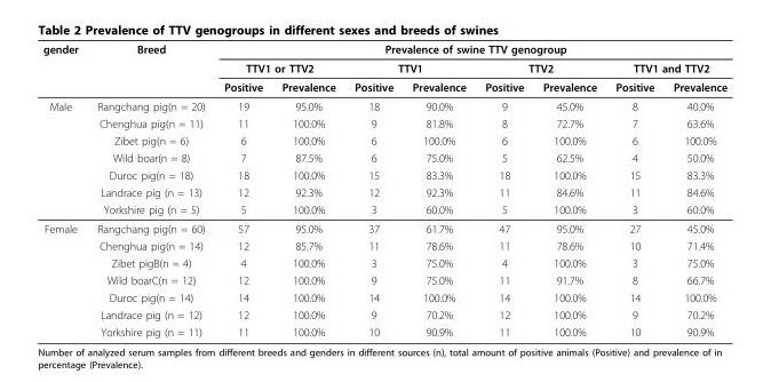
<table><thead><tr><td rowspan="3">gender</td><td rowspan="3">Breed</td><td colspan="8">Prevalence of swine TTV genogroup</td></tr><tr><td colspan="2">TTV1 or TTV2</td><td colspan="2">TTV1</td><td colspan="2">TTV2</td><td colspan="2">TTV1 and TTV2</td></tr><tr><td>Positive</td><td>Prevalence</td><td>Positive</td><td>Prevalence</td><td>Positive</td><td>Prevalence</td><td>Positive</td><td>Prevalence</td></tr></thead><tbody><tr><td rowspan="7">Male</td><td>Rangchang pig(n = 20)</td><td>19</td><td>95.0%</td><td>18</td><td>90.0%</td><td>9</td><td>45.0%</td><td>8</td><td>40.0%</td></tr><tr><td>Chenghua pig(n = 11)</td><td>11</td><td>100.0%</td><td>9</td><td>81.8%</td><td>8</td><td>72.7%</td><td>7</td><td>63.6%</td></tr><tr><td>Zibet pig(n = 6)</td><td>6</td><td>100.0%</td><td>6</td><td>100.0%</td><td>6</td><td>100.0%</td><td>6</td><td>100.0%</td></tr><tr><td>Wild boar(n = 8)</td><td>7</td><td>87.5%</td><td>6</td><td>75.0%</td><td>5</td><td>62.5%</td><td>4</td><td>50.0%</td></tr><tr><td>Duroc pig(n = 18)</td><td>18</td><td>100.0%</td><td>15</td><td>83.3%</td><td>18</td><td>100.0%</td><td>15</td><td>83.3%</td></tr><tr><td>Landrace pig (n = 13)</td><td>12</td><td>92.3%</td><td>12</td><td>92.3%</td><td>11</td><td>84.6%</td><td>11</td><td>84.6%</td></tr><tr><td>Yorkshire pig (n = 5)</td><td>5</td><td>100.0%</td><td>3</td><td>60.0%</td><td>5</td><td>100.0%</td><td>3</td><td>60.0%</td></tr><tr><td rowspan="7">Female</td><td>Rangchang pig(n = 60)</td><td>57</td><td>95.0%</td><td>37</td><td>61.7%</td><td>47</td><td>95.0%</td><td>27</td><td>45.0%</td></tr><tr><td>Chenghua pig(n = 14)</td><td>12</td><td>85.7%</td><td>11</td><td>78.6%</td><td>11</td><td>78.6%</td><td>10</td><td>71.4%</td></tr><tr><td>Zibet pigB(n = 4)</td><td>4</td><td>100.0%</td><td>3</td><td>75.0%</td><td>4</td><td>100.0%</td><td>3</td><td>75.0%</td></tr><tr><td>Wild boarC(n = 12)</td><td>12</td><td>100.0%</td><td>9</td><td>75.0%</td><td>11</td><td>91.7%</td><td>8</td><td>66.7%</td></tr><tr><td>Duroc pig(n = 14)</td><td>14</td><td>100.0%</td><td>14</td><td>100.0%</td><td>14</td><td>100.0%</td><td>14</td><td>100.0%</td></tr><tr><td>Landrace pig (n = 12)</td><td>12</td><td>100.0%</td><td>9</td><td>70.2%</td><td>12</td><td>100.0%</td><td>9</td><td>70.2%</td></tr><tr><td>Yorkshire pig (n = 11)</td><td>11</td><td>100.0%</td><td>10</td><td>90.9%</td><td>11</td><td>100.0%</td><td>10</td><td>90.9%</td></tr></tbody></table>